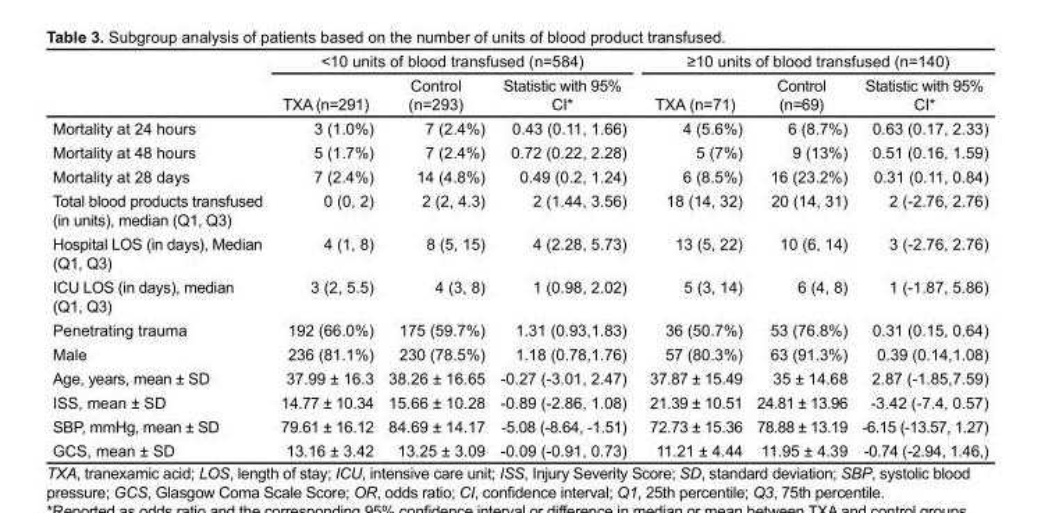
<table><thead><tr><td rowspan="2"></td><td colspan="3">&lt;10 units of blood transfused (n=584)</td><td colspan="3">≥10 units of blood transfused (n=140)</td></tr><tr><td>TXA (n=291)</td><td>Control (n=293)</td><td>Statistic with 95% CI*</td><td>TXA (n=71)</td><td>Control (n=69)</td><td>Statistic with 95% CI*</td></tr></thead><tbody><tr><td>Mortality at 24 hours</td><td>3 (1.0%)</td><td>7 (2.4%)</td><td>0.43 (0.11, 1.66)</td><td>4 (5.6%)</td><td>6 (8.7%)</td><td>0.63 (0.17, 2.33)</td></tr><tr><td>Mortality at 48 hours</td><td>5 (1.7%)</td><td>7 (2.4%)</td><td>0.72 (0.22, 2.28)</td><td>5 (7%)</td><td>9 (13%)</td><td>0.51 (0.16, 1.59)</td></tr><tr><td>Mortality at 28 days</td><td>7 (2.4%)</td><td>14 (4.8%)</td><td>0.49 (0.2, 1.24)</td><td>6 (8.5%)</td><td>16 (23.2%)</td><td>0.31 (0.11, 0.84)</td></tr><tr><td>Total blood products transfused (in units), median (Q1, Q3)</td><td>0 (0, 2)</td><td>2 (2, 4.3)</td><td>2 (1.44, 3.56)</td><td>18 (14, 32)</td><td>20 (14, 31)</td><td>2 (-2.76, 2.76)</td></tr><tr><td>Hospital LOS (in days), Median (Q1, Q3)</td><td>4 (1, 8)</td><td>8 (5, 15)</td><td>4 (2.28, 5.73)</td><td>13 (5, 22)</td><td>10 (6, 14)</td><td>3 (-2.76, 2.76)</td></tr><tr><td>ICU LOS (in days), median (Q1, Q3)</td><td>3 (2, 5.5)</td><td>4 (3, 8)</td><td>1 (0.98, 2.02)</td><td>5 (3, 14)</td><td>6 (4, 8)</td><td>1 (-1.87, 5.86)</td></tr><tr><td>Penetrating trauma</td><td>192 (66.0%)</td><td>175 (59.7%)</td><td>1.31 (0.93,1.83)</td><td>36 (50.7%)</td><td>53 (76.8%)</td><td>0.31 (0.15, 0.64)</td></tr><tr><td>Male</td><td>236 (81.1%)</td><td>230 (78.5%)</td><td>1.18 (0.78,1.76)</td><td>57 (80.3%)</td><td>63 (91.3%)</td><td>0.39 (0.14,1.08)</td></tr><tr><td>Age, years, mean ± SD</td><td>37.99 ± 16.3</td><td>38.26 ± 16.65</td><td>-0.27 (-3.01, 2.47)</td><td>37.87 ± 15.49</td><td>35 ± 14.68</td><td>2.87 (-1.85,7.59)</td></tr><tr><td>ISS, mean ± SD</td><td>14.77 ± 10.34</td><td>15.66 ± 10.28</td><td>-0.89 (-2.86, 1.08)</td><td>21.39 ± 10.51</td><td>24.81 ± 13.96</td><td>-3.42 (-7.4, 0.57)</td></tr><tr><td>SBP, mmHg, mean ± SD</td><td>79.61 ± 16.12</td><td>84.69 ± 14.17</td><td>-5.08 (-8.64, -1.51)</td><td>72.73 ± 15.36</td><td>78.88 ± 13.19</td><td>-6.15 (-13.57, 1.27)</td></tr><tr><td>GCS, mean ± SD</td><td>13.16 ± 3.42</td><td>13.25 ± 3.09</td><td>-0.09 (-0.91, 0.73)</td><td>11.21 ± 4.44</td><td>11.95 ± 4.39</td><td>-0.74 (-2.94, 1.46,)</td></tr></tbody></table>